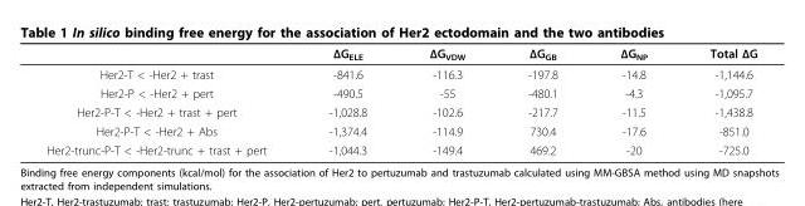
<table><thead><tr><td></td><td>ΔG<sub>ELE</sub></td><td>ΔG<sub>VDW</sub></td><td>ΔG<sub>GB</sub></td><td>ΔG<sub>NP</sub></td><td>Total ΔG</td></tr></thead><tbody><tr><td>Her2-T &lt; -Her2 + trast</td><td>-841.6</td><td>-116.3</td><td>-197.8</td><td>-14.8</td><td>-1,144.6</td></tr><tr><td>Her2-P &lt; -Her2 + pert</td><td>-490.5</td><td>-55</td><td>-480.1</td><td>-4.3</td><td>-1,095.7</td></tr><tr><td>Her2-P-T &lt; -Her2 + trast + pert</td><td>-1,028.8</td><td>-102.6</td><td>-217.7</td><td>-11.5</td><td>-1,438.8</td></tr><tr><td>Her2-P-T &lt; -Her2 + Abs</td><td>-1,374.4</td><td>-114.9</td><td>730.4</td><td>-17.6</td><td>-851.0</td></tr><tr><td>Her2-trunc-P-T &lt; -Her2-trunc + trast + pert</td><td>-1,044.3</td><td>-149.4</td><td>469.2</td><td>-20</td><td>-725.0</td></tr></tbody></table>